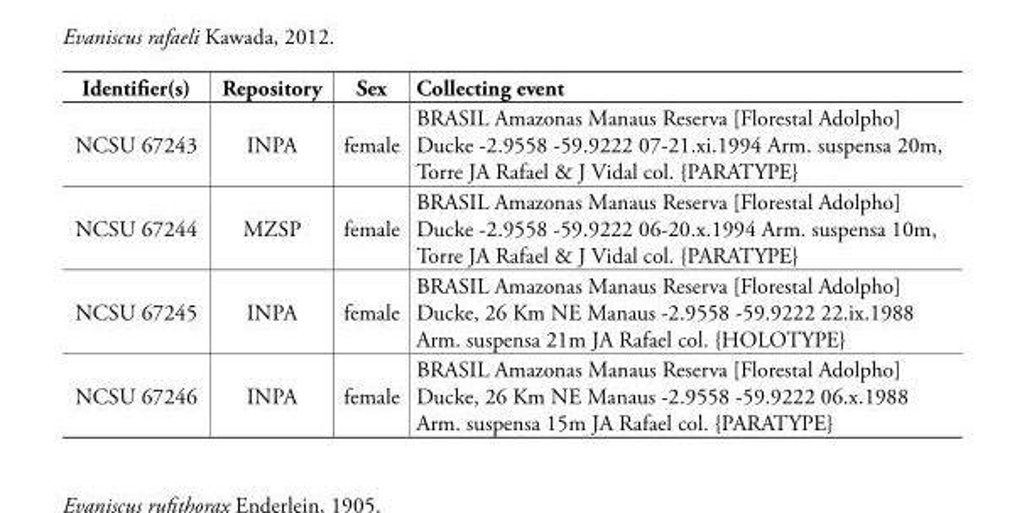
<table><thead><tr><td>Identifier(s)</td><td>Repository</td><td>Sex</td><td>Collecting event</td></tr></thead><tbody><tr><td>NCSU 67243</td><td>INPA</td><td>female</td><td>BRASIL Amazonas Manaus Reserva [Florestal Adolpho] Ducke -2.9558 -59.9222 07-21.xi.1994 Arm. suspensa 20m, Torre JA Rafael &amp; J Vidal col. {PARATYPE}</td></tr><tr><td>NCSU 67244</td><td>MZSP</td><td>female</td><td>BRASIL Amazonas Manaus Reserva [Florestal Adolpho] Ducke -2.9558 -59.9222 06-20.x.1994 Arm. suspensa 10m, Torre JA Rafael &amp; J Vidal col. {PARATYPE}</td></tr><tr><td>NCSU 67245</td><td>INPA</td><td>female</td><td>BRASIL Amazonas Manaus Reserva [Florestal Adolpho] Ducke, 26 Km NE Manaus -2.9558 -59.9222 22.ix.1988 Arm. suspensa 21m JA Rafael col. {HOLOTYPE}</td></tr><tr><td>NCSU 67246</td><td>INPA</td><td>female</td><td>BRASIL Amazonas Manaus Reserva [Florestal Adolpho] Ducke, 26 Km NE Manaus -2.9558 -59.9222 06.x.1988 Arm. suspensa 15m JA Rafael col. {PARATYPE}</td></tr></tbody></table>